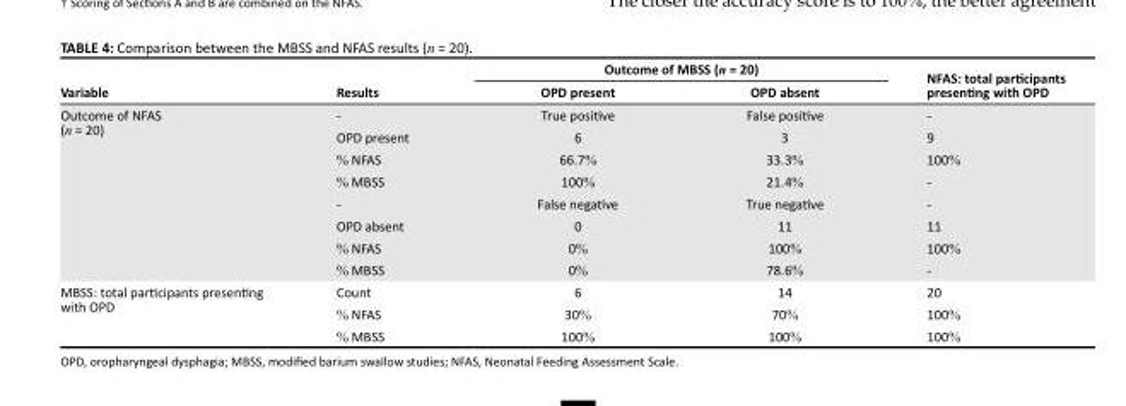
<table><thead><tr><td rowspan="2">Variable</td><td rowspan="2">Results</td><td colspan="2">Outcome of MBSS (n = 20)</td><td rowspan="2">NFAS: total participants presenting with OPD</td></tr><tr><td>OPD present</td><td>OPD absent</td></tr></thead><tbody><tr><td rowspan="8">Outcome of NFAS (n = 20)</td><td>-</td><td>True positive</td><td>False positive</td><td>-</td></tr><tr><td>OPD present</td><td>6</td><td>3</td><td>9</td></tr><tr><td>% NFAS</td><td>66.7%</td><td>33.3%</td><td>100%</td></tr><tr><td>% MBSS</td><td>100%</td><td>21.4%</td><td>-</td></tr><tr><td>-</td><td>False negative</td><td>True negative</td><td>-</td></tr><tr><td>OPD absent</td><td>0</td><td>11</td><td>11</td></tr><tr><td>% NFAS</td><td>0%</td><td>100%</td><td>100%</td></tr><tr><td>% MBSS</td><td>0%</td><td>78.6%</td><td>-</td></tr><tr><td rowspan="3">MBSS: total participants presenting with OPD</td><td>Count</td><td>6</td><td>14</td><td>20</td></tr><tr><td>% NFAS</td><td>30%</td><td>70%</td><td>100%</td></tr><tr><td>% MBSS</td><td>100%</td><td>100%</td><td>100%</td></tr></tbody></table>